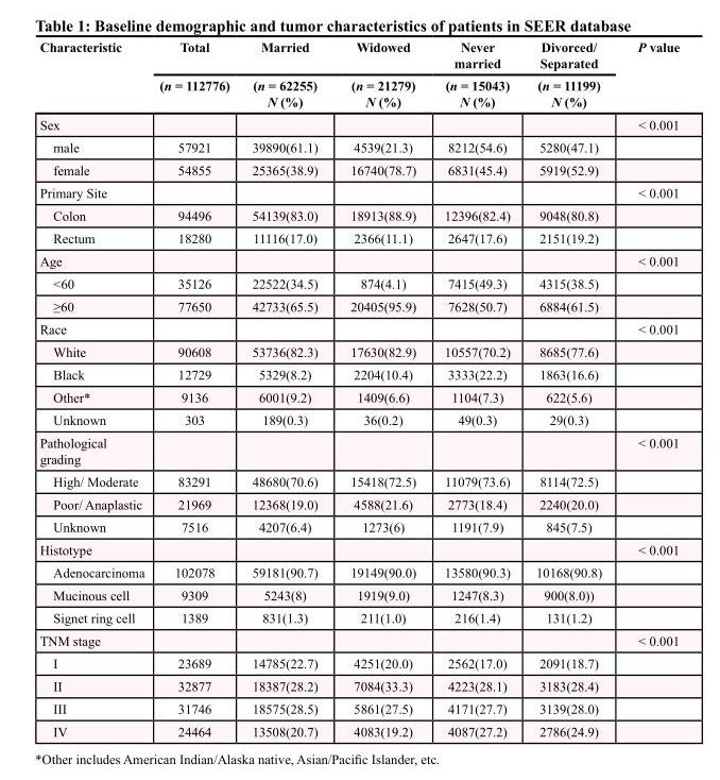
<table><thead><tr><td rowspan="2">Characteristic</td><td rowspan="2">Total (n = 112776)</td><td rowspan="2">Married (n = 62255) N (%)</td><td rowspan="2">Widowed (n = 21279) N (%)</td><td rowspan="2">Never married (n = 15043) N (%)</td><td rowspan="2">Divorced/ Separated (n = 11199) N (%)</td><td rowspan="2">P value</td></tr><tr></tr></thead><tbody><tr><td>Sex</td><td></td><td></td><td></td><td></td><td></td><td>&lt; 0.001</td></tr><tr><td>male</td><td>57921</td><td>39890(61.1)</td><td>4539(21.3)</td><td>8212(54.6)</td><td>5280(47.1)</td><td></td></tr><tr><td>female</td><td>54855</td><td>25365(38.9)</td><td>16740(78.7)</td><td>6831(45.4)</td><td>5919(52.9)</td><td></td></tr><tr><td>Primary Site</td><td></td><td></td><td></td><td></td><td></td><td>&lt; 0.001</td></tr><tr><td>Colon</td><td>94496</td><td>54139(83.0)</td><td>18913(88.9)</td><td>12396(82.4)</td><td>9048(80.8)</td><td></td></tr><tr><td>Rectum</td><td>18280</td><td>11116(17.0)</td><td>2366(11.1)</td><td>2647(17.6)</td><td>2151(19.2)</td><td></td></tr><tr><td>Age</td><td></td><td></td><td></td><td></td><td></td><td>&lt; 0.001</td></tr><tr><td>&lt;60</td><td>35126</td><td>22522(34.5)</td><td>874(4.1)</td><td>7415(49.3)</td><td>4315(38.5)</td><td></td></tr><tr><td>≥60</td><td>77650</td><td>42733(65.5)</td><td>20405(95.9)</td><td>7628(50.7)</td><td>6884(61.5)</td><td></td></tr><tr><td>Race</td><td></td><td></td><td></td><td></td><td></td><td>&lt; 0.001</td></tr><tr><td>White</td><td>90608</td><td>53736(82.3)</td><td>17630(82.9)</td><td>10557(70.2)</td><td>8685(77.6)</td><td></td></tr><tr><td>Black</td><td>12729</td><td>5329(8.2)</td><td>2204(10.4)</td><td>3333(22.2)</td><td>1863(16.6)</td><td></td></tr><tr><td>Other*</td><td>9136</td><td>6001(9.2)</td><td>1409(6.6)</td><td>1104(7.3)</td><td>622(5.6)</td><td></td></tr><tr><td>Unknown</td><td>303</td><td>189(0.3)</td><td>36(0.2)</td><td>49(0.3)</td><td>29(0.3)</td><td></td></tr><tr><td>Pathological grading</td><td></td><td></td><td></td><td></td><td></td><td>&lt; 0.001</td></tr><tr><td>High/ Moderate</td><td>83291</td><td>48680(70.6)</td><td>15418(72.5)</td><td>11079(73.6)</td><td>8114(72.5)</td><td></td></tr><tr><td>Poor/ Anaplastic</td><td>21969</td><td>12368(19.0)</td><td>4588(21.6)</td><td>2773(18.4)</td><td>2240(20.0)</td><td></td></tr><tr><td>Unknown</td><td>7516</td><td>4207(6.4)</td><td>1273(6)</td><td>1191(7.9)</td><td>845(7.5)</td><td></td></tr><tr><td>Histotype</td><td></td><td></td><td></td><td></td><td></td><td>&lt; 0.001</td></tr><tr><td>Adenocarcinoma</td><td>102078</td><td>59181(90.7)</td><td>19149(90.0)</td><td>13580(90.3)</td><td>10168(90.8)</td><td></td></tr><tr><td>Mucinous cell</td><td>9309</td><td>5243(8)</td><td>1919(9.0)</td><td>1247(8.3)</td><td>900(8.0))</td><td></td></tr><tr><td>Signet ring cell</td><td>1389</td><td>831(1.3)</td><td>211(1.0)</td><td>216(1.4)</td><td>131(1.2)</td><td></td></tr><tr><td>TNM stage</td><td></td><td></td><td></td><td></td><td></td><td>&lt; 0.001</td></tr><tr><td>I</td><td>23689</td><td>14785(22.7)</td><td>4251(20.0)</td><td>2562(17.0)</td><td>2091(18.7)</td><td></td></tr><tr><td>II</td><td>32877</td><td>18387(28.2)</td><td>7084(33.3)</td><td>4223(28.1)</td><td>3183(28.4)</td><td></td></tr><tr><td>III</td><td>31746</td><td>18575(28.5)</td><td>5861(27.5)</td><td>4171(27.7)</td><td>3139(28.0)</td><td></td></tr><tr><td>IV</td><td>24464</td><td>13508(20.7)</td><td>4083(19.2)</td><td>4087(27.2)</td><td>2786(24.9)</td><td></td></tr></tbody></table>